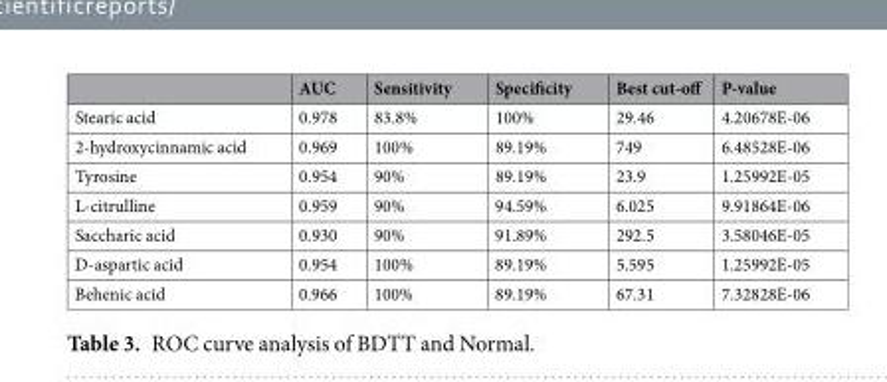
<table><thead><tr><td></td><td>AUC</td><td>Sensitivity</td><td>Specificity</td><td>Best cut-off</td><td>P-value</td></tr></thead><tbody><tr><td>Stearic acid</td><td>0.978</td><td>83.8%</td><td>100%</td><td>29.46</td><td>4.20678E-06</td></tr><tr><td>2-hydroxycinnamic acid</td><td>0.969</td><td>100%</td><td>89.19%</td><td>749</td><td>6.48528E-06</td></tr><tr><td>Tyrosine</td><td>0.954</td><td>90%</td><td>89.19%</td><td>23.9</td><td>1.25992E-05</td></tr><tr><td>L-citrulline</td><td>0.959</td><td>90%</td><td>94.59%</td><td>6.025</td><td>9.91864E-06</td></tr><tr><td>Saccharic acid</td><td>0.930</td><td>90%</td><td>91.89%</td><td>292.5</td><td>3.58046E-05</td></tr><tr><td>D-aspartic acid</td><td>0.954</td><td>100%</td><td>89.19%</td><td>5.595</td><td>1.25992E-05</td></tr><tr><td>Behenic acid</td><td>0.966</td><td>100%</td><td>89.19%</td><td>67.31</td><td>7.32828E-06</td></tr></tbody></table>